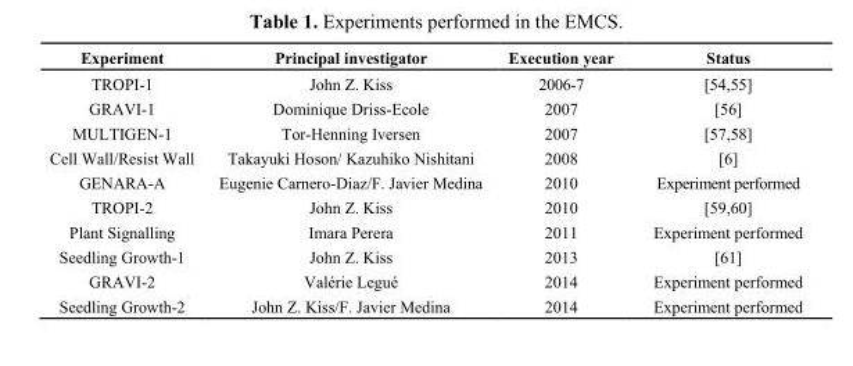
<table><thead><tr><td>Experiment</td><td>Principal investigator</td><td>Execution year</td><td>Status</td></tr></thead><tbody><tr><td>TROPI-1</td><td>John Z. Kiss</td><td>2006-7</td><td>[54,55]</td></tr><tr><td>GRAVI-1</td><td>Dominique Driss-Ecole</td><td>2007</td><td>[56]</td></tr><tr><td>MULTIGEN-1</td><td>Tor-Henning Iversen</td><td>2007</td><td>[57,58]</td></tr><tr><td>Cell Wall/Resist Wall</td><td>Takayuki Hoson/ Kazuhiko Nishitani</td><td>2008</td><td>[6]</td></tr><tr><td>GENARA-A</td><td>Eugenie Carnero-Diaz/F. Javier Medina</td><td>2010</td><td>Experiment performed</td></tr><tr><td>TROPI-2</td><td>John Z. Kiss</td><td>2010</td><td>[59,60]</td></tr><tr><td>Plant Signalling</td><td>Imara Perera</td><td>2011</td><td>Experiment performed</td></tr><tr><td>Seedling Growth-1</td><td>John Z. Kiss</td><td>2013</td><td>[61]</td></tr><tr><td>GRAVI-2</td><td>Valérie Legué</td><td>2014</td><td>Experiment performed</td></tr><tr><td>Seedling Growth-2</td><td>John Z. Kiss/F. Javier Medina</td><td>2014</td><td>Experiment performed</td></tr></tbody></table>